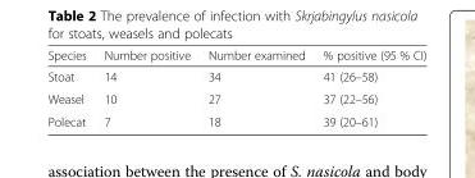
<table><thead><tr><td>Species</td><td>Number positive</td><td>Number examined</td><td>% positive (95 % CI)</td></tr></thead><tbody><tr><td>Stoat</td><td>14</td><td>34</td><td>41 (26–58)</td></tr><tr><td>Weasel</td><td>10</td><td>27</td><td>37 (22–56)</td></tr><tr><td>Polecat</td><td>7</td><td>18</td><td>39 (20–61)</td></tr></tbody></table>